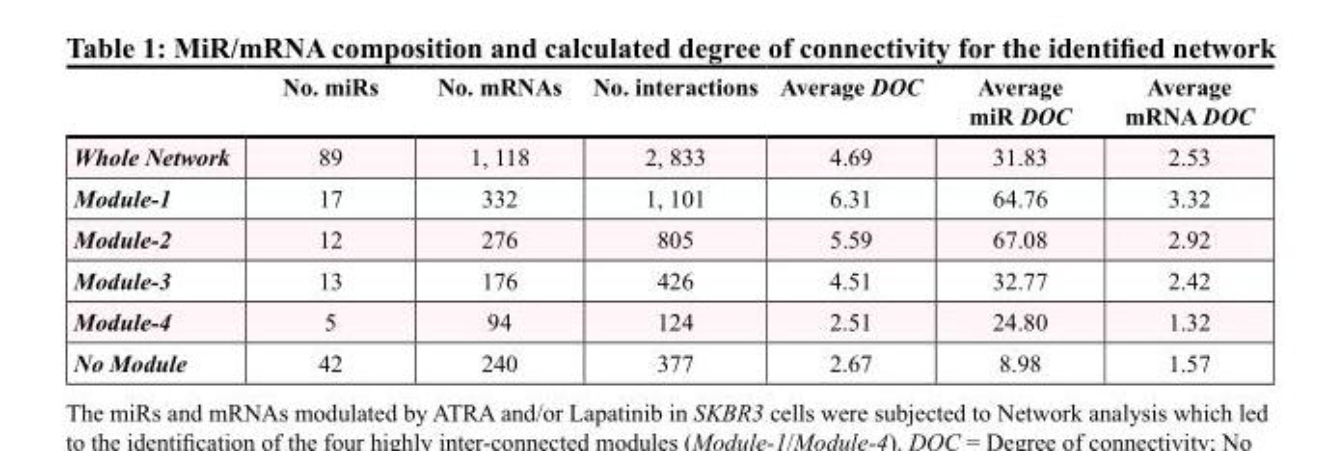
<table><thead><tr><td></td><td>No. miRs</td><td>No. mRNAs</td><td>No. interactions</td><td>Average DOC</td><td>Average miR DOC</td><td>Average mRNA DOC</td></tr></thead><tbody><tr><td>Whole Network</td><td>89</td><td>1, 118</td><td>2, 833</td><td>4.69</td><td>31.83</td><td>2.53</td></tr><tr><td>Module-1</td><td>17</td><td>332</td><td>1, 101</td><td>6.31</td><td>64.76</td><td>3.32</td></tr><tr><td>Module-2</td><td>12</td><td>276</td><td>805</td><td>5.59</td><td>67.08</td><td>2.92</td></tr><tr><td>Module-3</td><td>13</td><td>176</td><td>426</td><td>4.51</td><td>32.77</td><td>2.42</td></tr><tr><td>Module-4</td><td>5</td><td>94</td><td>124</td><td>2.51</td><td>24.80</td><td>1.32</td></tr><tr><td>No Module</td><td>42</td><td>240</td><td>377</td><td>2.67</td><td>8.98</td><td>1.57</td></tr></tbody></table>